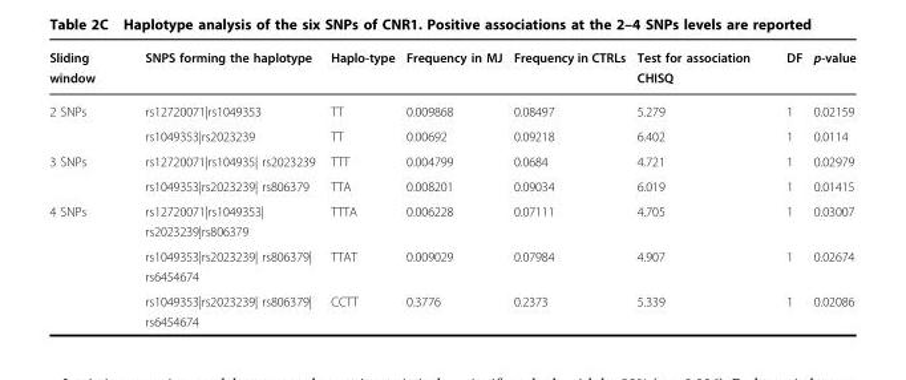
<table><thead><tr><td>Sliding window</td><td>SNPS forming the haplotype</td><td>Haplo-type</td><td>Frequency in MJ</td><td>Frequency in CTRLs</td><td>Test for association CHISQ</td><td>DF</td><td>p-value</td></tr></thead><tbody><tr><td rowspan="2">2 SNPs</td><td>rs12720071|rs1049353</td><td>TT</td><td>0.009868</td><td>0.08497</td><td>5.279</td><td>1</td><td>0.02159</td></tr><tr><td>rs1049353|rs2023239</td><td>TT</td><td>0.00692</td><td>0.09218</td><td>6.402</td><td>1</td><td>0.0114</td></tr><tr><td rowspan="2">3 SNPs</td><td>rs12720071|rs104935| rs2023239</td><td>TTT</td><td>0.004799</td><td>0.0684</td><td>4.721</td><td>1</td><td>0.02979</td></tr><tr><td>rs1049353|rs2023239| rs806379</td><td>TTA</td><td>0.008201</td><td>0.09034</td><td>6.019</td><td>1</td><td>0.01415</td></tr><tr><td rowspan="3">4 SNPs</td><td>rs12720071|rs1049353| rs2023239|rs806379</td><td>TTTA</td><td>0.006228</td><td>0.07111</td><td>4.705</td><td>1</td><td>0.03007</td></tr><tr><td>rs1049353|rs2023239| rs806379| rs6454674</td><td>TTAT</td><td>0.009029</td><td>0.07984</td><td>4.907</td><td>1</td><td>0.02674</td></tr><tr><td>rs1049353|rs2023239| rs806379| rs6454674</td><td>CCTT</td><td>0.3776</td><td>0.2373</td><td>5.339</td><td>1</td><td>0.02086</td></tr></tbody></table>